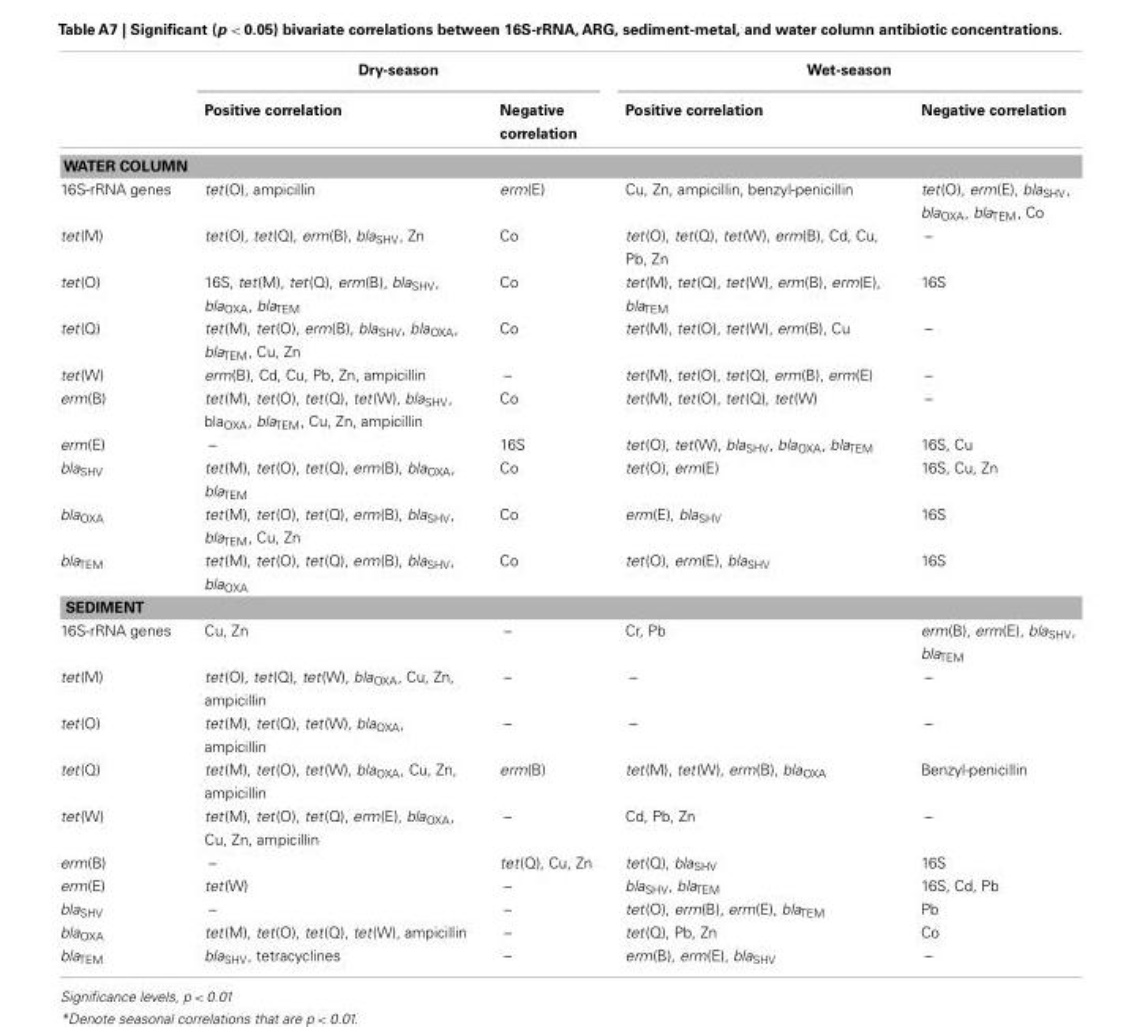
<table><thead><tr><td rowspan="2"></td><td colspan="2">Dry-season</td><td colspan="2">Wet-season</td></tr><tr><td>Positive correlation</td><td>Negative correlation</td><td>Positive correlation</td><td>Negative correlation</td></tr></thead><tbody><tr><td colspan="5">WATER COLUMN</td></tr><tr><td>16S-rRNA genes</td><td>tet(O), ampicillin</td><td>erm(E)</td><td>Cu, Zn, ampicillin, benzyl-penicillin</td><td>tet(O), erm(E), bla<sub>SHV</sub>, bla<sub>OXA</sub>, bla<sub>TEM</sub>, Co</td></tr><tr><td>tet(M)</td><td>tet(O), tet(Q), erm(B), bla<sub>SHV</sub>, Zn</td><td>Co</td><td>tet(O), tet(Q), tet(W), erm(B), Cd, Cu, Pb, Zn</td><td>–</td></tr><tr><td>tet(O)</td><td>16S, tet(M), tet(Q), erm(B), bla<sub>SHV</sub>, bla<sub>OXA</sub>, bla<sub>TEM</sub></td><td>Co</td><td>tet(M), tet(Q), tet(W), erm(B), erm(E), bla<sub>TEM</sub></td><td>16S</td></tr><tr><td>tet(Q)</td><td>tet(M), tet(O), erm(B), bla<sub>SHV</sub>, bla<sub>OXA</sub>, bla<sub>TEM</sub>, Cu, Zn</td><td>Co</td><td>tet(M), tet(O), tet(W), erm(B), Cu</td><td>–</td></tr><tr><td>tet(W)</td><td>erm(B), Cd, Cu, Pb, Zn, ampicillin</td><td>–</td><td>tet(M), tet(O), tet(Q), erm(B), erm(E)</td><td>–</td></tr><tr><td>erm(B)</td><td>tet(M), tet(O), tet(Q), tet(W), bla<sub>SHV</sub>, bla<sub>OXA</sub>, bla<sub>TEM</sub>, Cu, Zn, ampicillin</td><td>Co</td><td>tet(M), tet(O), tet(Q), tet(W)</td><td>–</td></tr><tr><td>erm(E)</td><td>–</td><td>16S</td><td>tet(O), tet(W), bla<sub>SHV</sub>, bla<sub>OXA</sub>, bla<sub>TEM</sub></td><td>16S, Cu</td></tr><tr><td>bla<sub>SHV</sub></td><td>tet(M), tet(O), tet(Q), erm(B), bla<sub>OXA</sub>, bla<sub>TEM</sub></td><td>Co</td><td>tet(O), erm(E)</td><td>16S, Cu, Zn</td></tr><tr><td>bla<sub>OXA</sub></td><td>tet(M), tet(O), tet(Q), erm(B), bla<sub>SHV</sub>, bla<sub>TEM</sub>, Cu, Zn</td><td>Co</td><td>erm(E), bla<sub>SHV</sub></td><td>16S</td></tr><tr><td>bla<sub>TEM</sub></td><td>tet(M), tet(O), tet(Q), erm(B), bla<sub>SHV</sub>, bla<sub>OXA</sub></td><td>Co</td><td>tet(O), erm(E), bla<sub>SHV</sub></td><td>16S</td></tr><tr><td colspan="5">SEDIMENT</td></tr><tr><td>16S-rRNA genes</td><td>Cu, Zn</td><td>–</td><td>Cr, Pb</td><td>erm(B), erm(E), bla<sub>SHV</sub>, bla<sub>TEM</sub></td></tr><tr><td>tet(M)</td><td>tet(O), tet(Q), tet(W), bla<sub>OXA</sub>, Cu, Zn, ampicillin</td><td>–</td><td>–</td><td>–</td></tr><tr><td>tet(O)</td><td>tet(M), tet(Q), tet(W), bla<sub>OXA</sub>, ampicillin</td><td>–</td><td>–</td><td>–</td></tr><tr><td>tet(Q)</td><td>tet(M), tet(O), tet(W), bla<sub>OXA</sub>, Cu, Zn, ampicillin</td><td>erm(B)</td><td>tet(M), tet(W), erm(B), bla<sub>OXA</sub></td><td>Benzyl-penicillin</td></tr><tr><td>tet(W)</td><td>tet(M), tet(O), tet(Q), erm(E), bla<sub>OXA</sub>, Cu, Zn, ampicillin</td><td>–</td><td>Cd, Pb, Zn</td><td>–</td></tr><tr><td>erm(B)</td><td>–</td><td>tet(Q), Cu, Zn</td><td>tet(Q), bla<sub>SHV</sub></td><td>16S</td></tr><tr><td>erm(E)</td><td>tet(W)</td><td>–</td><td>bla<sub>SHV</sub>, bla<sub>TEM</sub></td><td>16S, Cd, Pb</td></tr><tr><td>bla<sub>SHV</sub></td><td>–</td><td>–</td><td>tet(O), erm(B), erm(E), bla<sub>TEM</sub></td><td>Pb</td></tr><tr><td>bla<sub>OXA</sub></td><td>tet(M), tet(O), tet(Q), tet(W), ampicillin</td><td>–</td><td>tet(Q), Pb, Zn</td><td>Co</td></tr><tr><td>bla<sub>TEM</sub></td><td>bla<sub>SHV</sub>, tetracyclines</td><td>–</td><td>erm(B), erm(E), bla<sub>SHV</sub></td><td>–</td></tr></tbody></table>